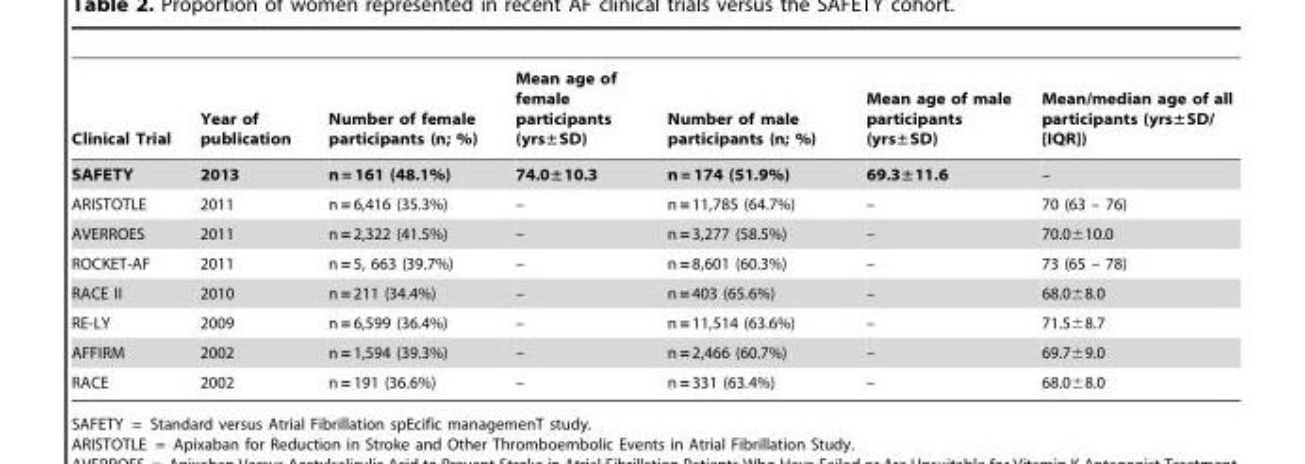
<table><thead><tr><td>Clinical Trial</td><td>Year of publication</td><td>Number of female participants (n; %)</td><td>Mean age of female participants (yrs±SD)</td><td>Number of male participants (n; %)</td><td>Mean age of male participants (yrs±SD)</td><td>Mean/median age of all participants (yrs±SD/ [IQR])</td></tr></thead><tbody><tr><td>SAFETY</td><td>2013</td><td>n = 161 (48.1%)</td><td>74.0±10.3</td><td>n = 174 (51.9%)</td><td>69.3±11.6</td><td>–</td></tr><tr><td>ARISTOTLE</td><td>2011</td><td>n = 6,416 (35.3%)</td><td>–</td><td>n = 11,785 (64.7%)</td><td>–</td><td>70 (63 – 76)</td></tr><tr><td>AVERROES</td><td>2011</td><td>n = 2,322 (41.5%)</td><td>–</td><td>n = 3,277 (58.5%)</td><td>–</td><td>70.0±10.0</td></tr><tr><td>ROCKET-AF</td><td>2011</td><td>n = 5, 663 (39.7%)</td><td>–</td><td>n = 8,601 (60.3%)</td><td>–</td><td>73 (65 – 78)</td></tr><tr><td>RACE II</td><td>2010</td><td>n = 211 (34.4%)</td><td>–</td><td>n = 403 (65.6%)</td><td>–</td><td>68.0±8.0</td></tr><tr><td>RE-LY</td><td>2009</td><td>n = 6,599 (36.4%)</td><td>–</td><td>n = 11,514 (63.6%)</td><td>–</td><td>71.5±8.7</td></tr><tr><td>AFFIRM</td><td>2002</td><td>n = 1,594 (39.3%)</td><td>–</td><td>n = 2,466 (60.7%)</td><td>–</td><td>69.7±9.0</td></tr><tr><td>RACE</td><td>2002</td><td>n = 191 (36.6%)</td><td>–</td><td>n = 331 (63.4%)</td><td>–</td><td>68.0±8.0</td></tr></tbody></table>